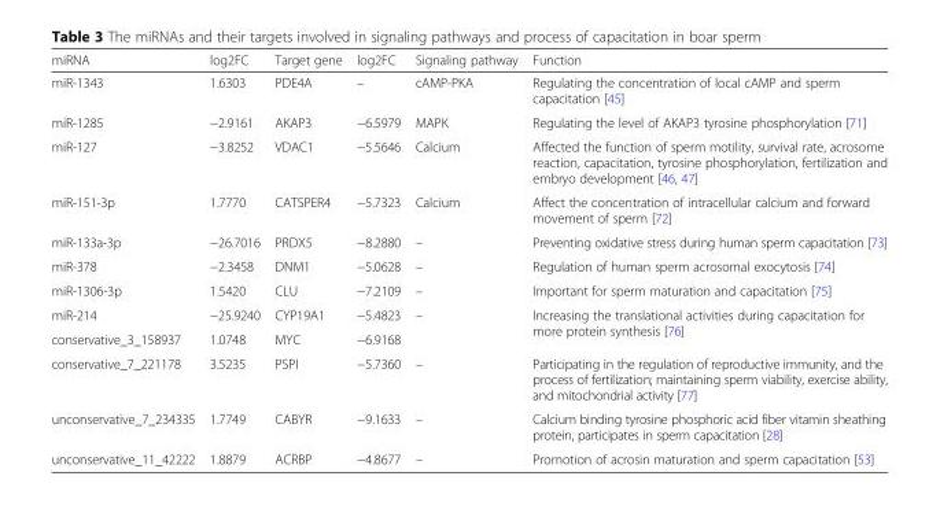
<table><thead><tr><td>miRNA</td><td>log2FC</td><td>Target gene</td><td>log2FC</td><td>Signaling pathway</td><td>Function</td></tr></thead><tbody><tr><td>miR-1343</td><td>1.6303</td><td>PDE4A</td><td>–</td><td>cAMP-PKA</td><td>Regulating the concentration of local cAMP and sperm capacitation [45]</td></tr><tr><td>miR-1285</td><td>−2.9161</td><td>AKAP3</td><td>−6.5979</td><td>MAPK</td><td>Regulating the level of AKAP3 tyrosine phosphorylation [71]</td></tr><tr><td>miR-127</td><td>−3.8252</td><td>VDAC1</td><td>−5.5646</td><td>Calcium</td><td>Affected the function of sperm motility, survival rate, acrosome reaction, capacitation, tyrosine phosphorylation, fertilization and embryo development [46, 47]</td></tr><tr><td>miR-151-3p</td><td>1.7770</td><td>CATSPER4</td><td>−5.7323</td><td>Calcium</td><td>Affect the concentration of intracellular calcium and forward movement of sperm [72]</td></tr><tr><td>miR-133a-3p</td><td>−26.7016</td><td>PRDX5</td><td>−8.2880</td><td>–</td><td>Preventing oxidative stress during human sperm capacitation [73]</td></tr><tr><td>miR-378</td><td>−2.3458</td><td>DNM1</td><td>−5.0628</td><td>–</td><td>Regulation of human sperm acrosomal exocytosis [74]</td></tr><tr><td>miR-1306-3p</td><td>1.5420</td><td>CLU</td><td>−7.2109</td><td>–</td><td>Important for sperm maturation and capacitation [75]</td></tr><tr><td>miR-214</td><td>−25.9240</td><td>CYP19A1</td><td>−5.4823</td><td rowspan="2">–</td><td rowspan="2">Increasing the translational activities during capacitation for more protein synthesis [76]</td></tr><tr><td>conservative_3_158937</td><td>1.0748</td><td>MYC</td><td>−6.9168</td></tr><tr><td>conservative_7_221178</td><td>3.5235</td><td>PSPI</td><td>−5.7360</td><td>–</td><td>Participating in the regulation of reproductive immunity, and the process of fertilization; maintaining sperm viability, exercise ability, and mitochondrial activity [77]</td></tr><tr><td>unconservative_7_234335</td><td>1.7749</td><td>CABYR</td><td>−9.1633</td><td>–</td><td>Calcium binding tyrosine phosphoric acid fiber vitamin sheathing protein, participates in sperm capacitation [28]</td></tr><tr><td>unconservative_11_42222</td><td>1.8879</td><td>ACRBP</td><td>−4.8677</td><td>–</td><td>Promotion of acrosin maturation and sperm capacitation [53]</td></tr></tbody></table>